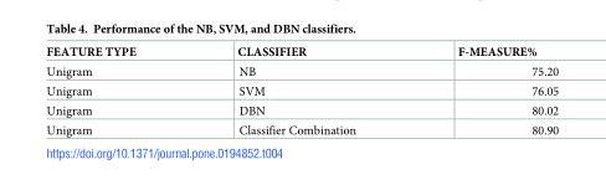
<table><thead><tr><td>FEATURE TYPE</td><td>CLASSIFIER</td><td>F-MEASURE%</td></tr></thead><tbody><tr><td>Unigram</td><td>NB</td><td>75.20</td></tr><tr><td>Unigram</td><td>SVM</td><td>76.05</td></tr><tr><td>Unigram</td><td>DBN</td><td>80.02</td></tr><tr><td>Unigram</td><td>Classifier Combination</td><td>80.90</td></tr></tbody></table>